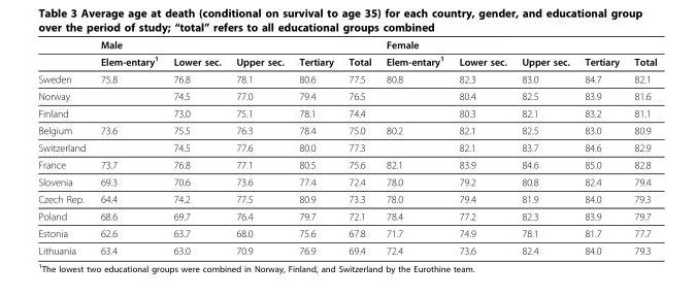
<table><thead><tr><td rowspan="2"></td><td colspan="5">Male</td><td colspan="5">Female</td></tr><tr><td>Elem-entary<sup>1</sup></td><td>Lower sec.</td><td>Upper sec.</td><td>Tertiary</td><td>Total</td><td>Elem-entary<sup>1</sup></td><td>Lower sec.</td><td>Upper sec.</td><td>Tertiary</td><td>Total</td></tr></thead><tbody><tr><td>Sweden</td><td>75.8</td><td>76.8</td><td>78.1</td><td>80.6</td><td>77.5</td><td>80.8</td><td>82.3</td><td>83.0</td><td>84.7</td><td>82.1</td></tr><tr><td>Norway</td><td></td><td>74.5</td><td>77.0</td><td>79.4</td><td>76.5</td><td></td><td>80.4</td><td>82.5</td><td>83.9</td><td>81.6</td></tr><tr><td>Finland</td><td></td><td>73.0</td><td>75.1</td><td>78.1</td><td>74.4</td><td></td><td>80.3</td><td>82.1</td><td>83.2</td><td>81.1</td></tr><tr><td>Belgium</td><td>73.6</td><td>75.5</td><td>76.3</td><td>78.4</td><td>75.0</td><td>80.2</td><td>82.1</td><td>82.5</td><td>83.0</td><td>80.9</td></tr><tr><td>Switzerland</td><td></td><td>74.5</td><td>77.6</td><td>80.0</td><td>77.3</td><td></td><td>82.1</td><td>83.7</td><td>84.6</td><td>82.9</td></tr><tr><td>France</td><td>73.7</td><td>76.8</td><td>77.1</td><td>80.5</td><td>75.6</td><td>82.1</td><td>83.9</td><td>84.6</td><td>85.0</td><td>82.8</td></tr><tr><td>Slovenia</td><td>69.3</td><td>70.6</td><td>73.6</td><td>77.4</td><td>72.4</td><td>78.0</td><td>79.2</td><td>80.8</td><td>82.4</td><td>79.4</td></tr><tr><td>Czech Rep.</td><td>64.4</td><td>74.2</td><td>77.5</td><td>80.9</td><td>73.3</td><td>78.0</td><td>79.4</td><td>81.9</td><td>84.0</td><td>79.3</td></tr><tr><td>Poland</td><td>68.6</td><td>69.7</td><td>76.4</td><td>79.7</td><td>72.1</td><td>78.4</td><td>77.2</td><td>82.3</td><td>83.9</td><td>79.7</td></tr><tr><td>Estonia</td><td>62.6</td><td>63.7</td><td>68.0</td><td>75.6</td><td>67.8</td><td>71.7</td><td>74.9</td><td>78.1</td><td>81.7</td><td>77.7</td></tr><tr><td>Lithuania</td><td>63.4</td><td>63.0</td><td>70.9</td><td>76.9</td><td>69.4</td><td>72.4</td><td>73.6</td><td>82.4</td><td>84.0</td><td>79.3</td></tr></tbody></table>